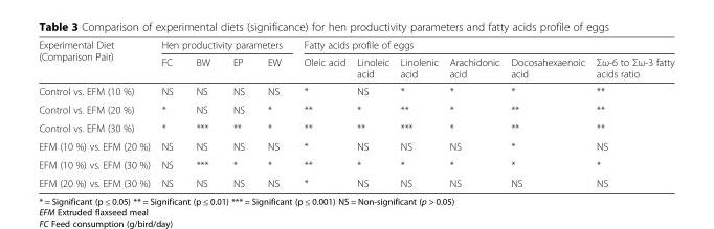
<table><thead><tr><td rowspan="2">Experimental Diet (Comparison Pair)</td><td colspan="4">Hen productivity parameters</td><td colspan="6">Fatty acids profile of eggs</td></tr><tr><td>FC</td><td>BW</td><td>EP</td><td>EW</td><td>Oleic acid</td><td>Linoleic acid</td><td>Linolenic acid</td><td>Arachidonic acid</td><td>Docosahexaenoic acid</td><td>Σω-6 to Σω-3 fatty acids ratio</td></tr></thead><tbody><tr><td>Control vs. EFM (10 %)</td><td>NS</td><td>NS</td><td>NS</td><td>NS</td><td>*</td><td>NS</td><td>*</td><td>*</td><td>*</td><td>**</td></tr><tr><td>Control vs. EFM (20 %)</td><td>*</td><td>NS</td><td>NS</td><td>*</td><td>**</td><td>*</td><td>**</td><td>*</td><td>**</td><td>**</td></tr><tr><td>Control vs. EFM (30 %)</td><td>*</td><td>***</td><td>**</td><td>*</td><td>**</td><td>**</td><td>***</td><td>*</td><td>**</td><td>**</td></tr><tr><td>EFM (10 %) vs. EFM (20 %)</td><td>NS</td><td>NS</td><td>NS</td><td>NS</td><td>*</td><td>NS</td><td>NS</td><td>NS</td><td>*</td><td>NS</td></tr><tr><td>EFM (10 %) vs. EFM (30 %)</td><td>NS</td><td>***</td><td>*</td><td>*</td><td>**</td><td>*</td><td>*</td><td>*</td><td>*</td><td>*</td></tr><tr><td>EFM (20 %) vs. EFM (30 %)</td><td>NS</td><td>NS</td><td>NS</td><td>NS</td><td>*</td><td>NS</td><td>NS</td><td>NS</td><td>NS</td><td>NS</td></tr></tbody></table>